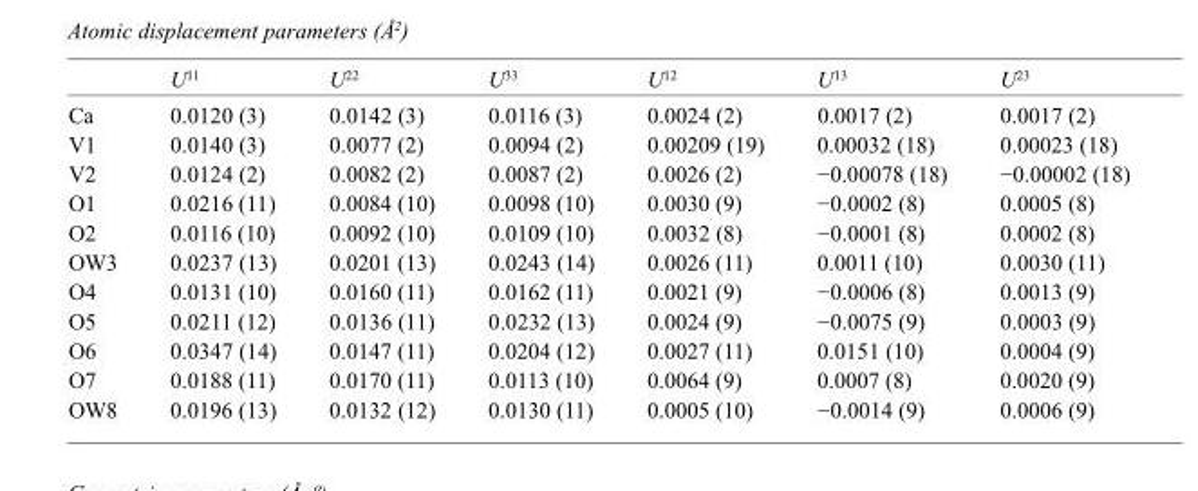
<table><thead><tr><td></td><td>U<sup>11</sup></td><td>U<sup>22</sup></td><td>U<sup>33</sup></td><td>U<sup>12</sup></td><td>U<sup>13</sup></td><td>U<sup>23</sup></td></tr></thead><tbody><tr><td>Ca</td><td>0.0120 (3)</td><td>0.0142 (3)</td><td>0.0116 (3)</td><td>0.0024 (2)</td><td>0.0017 (2)</td><td>0.0017 (2)</td></tr><tr><td>V1</td><td>0.0140 (3)</td><td>0.0077 (2)</td><td>0.0094 (2)</td><td>0.00209 (19)</td><td>0.00032 (18)</td><td>0.00023 (18)</td></tr><tr><td>V2</td><td>0.0124 (2)</td><td>0.0082 (2)</td><td>0.0087 (2)</td><td>0.0026 (2)</td><td>−0.00078 (18)</td><td>−0.00002 (18)</td></tr><tr><td>O1</td><td>0.0216 (11)</td><td>0.0084 (10)</td><td>0.0098 (10)</td><td>0.0030 (9)</td><td>−0.0002 (8)</td><td>0.0005 (8)</td></tr><tr><td>O2</td><td>0.0116 (10)</td><td>0.0092 (10)</td><td>0.0109 (10)</td><td>0.0032 (8)</td><td>−0.0001 (8)</td><td>0.0002 (8)</td></tr><tr><td>OW3</td><td>0.0237 (13)</td><td>0.0201 (13)</td><td>0.0243 (14)</td><td>0.0026 (11)</td><td>0.0011 (10)</td><td>0.0030 (11)</td></tr><tr><td>O4</td><td>0.0131 (10)</td><td>0.0160 (11)</td><td>0.0162 (11)</td><td>0.0021 (9)</td><td>−0.0006 (8)</td><td>0.0013 (9)</td></tr><tr><td>O5</td><td>0.0211 (12)</td><td>0.0136 (11)</td><td>0.0232 (13)</td><td>0.0024 (9)</td><td>−0.0075 (9)</td><td>0.0003 (9)</td></tr><tr><td>O6</td><td>0.0347 (14)</td><td>0.0147 (11)</td><td>0.0204 (12)</td><td>0.0027 (11)</td><td>0.0151 (10)</td><td>0.0004 (9)</td></tr><tr><td>O7</td><td>0.0188 (11)</td><td>0.0170 (11)</td><td>0.0113 (10)</td><td>0.0064 (9)</td><td>0.0007 (8)</td><td>0.0020 (9)</td></tr><tr><td>OW8</td><td>0.0196 (13)</td><td>0.0132 (12)</td><td>0.0130 (11)</td><td>0.0005 (10)</td><td>−0.0014 (9)</td><td>0.0006 (9)</td></tr></tbody></table>